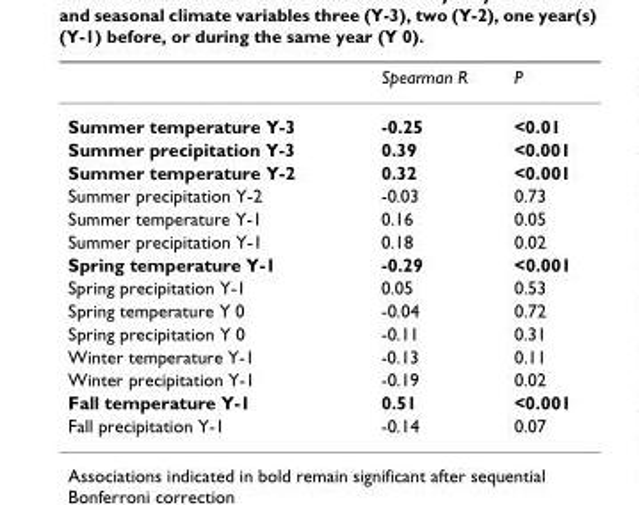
<table><thead><tr><td></td><td>Spearman R</td><td>P</td></tr></thead><tbody><tr><td>Summer temperature Y-3</td><td>-0.25</td><td>&lt;0.01</td></tr><tr><td>Summer precipitation Y-3</td><td>0.39</td><td>&lt;0.001</td></tr><tr><td>Summer temperature Y-2</td><td>0.32</td><td>&lt;0.001</td></tr><tr><td>Summer precipitation Y-2</td><td>-0.03</td><td>0.73</td></tr><tr><td>Summer temperature Y-1</td><td>0.16</td><td>0.05</td></tr><tr><td>Summer precipitation Y-1</td><td>0.18</td><td>0.02</td></tr><tr><td>Spring temperature Y-1</td><td>-0.29</td><td>&lt;0.001</td></tr><tr><td>Spring precipitation Y-1</td><td>0.05</td><td>0.53</td></tr><tr><td>Spring temperature Y 0</td><td>-0.04</td><td>0.72</td></tr><tr><td>Spring precipitation Y 0</td><td>-0.11</td><td>0.31</td></tr><tr><td>Winter temperature Y-1</td><td>-0.13</td><td>0.11</td></tr><tr><td>Winter precipitation Y-1</td><td>-0.19</td><td>0.02</td></tr><tr><td>Fall temperature Y-1</td><td>0.51</td><td>&lt;0.001</td></tr><tr><td>Fall precipitation Y-1</td><td>-0.14</td><td>0.07</td></tr></tbody></table>